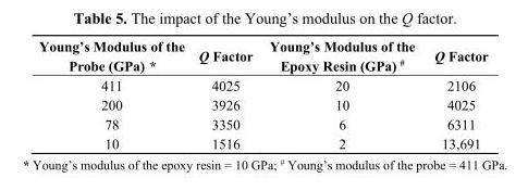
<table><thead><tr><td>Young’s Modulus of the Probe (GPa) *</td><td>Q Factor</td><td>Young’s Modulus of the Epoxy Resin (GPa) <sup>#</sup></td><td>Q Factor</td></tr></thead><tbody><tr><td>411</td><td>4025</td><td>20</td><td>2106</td></tr><tr><td>200</td><td>3926</td><td>10</td><td>4025</td></tr><tr><td>78</td><td>3350</td><td>6</td><td>6311</td></tr><tr><td>10</td><td>1516</td><td>2</td><td>13,691</td></tr></tbody></table>